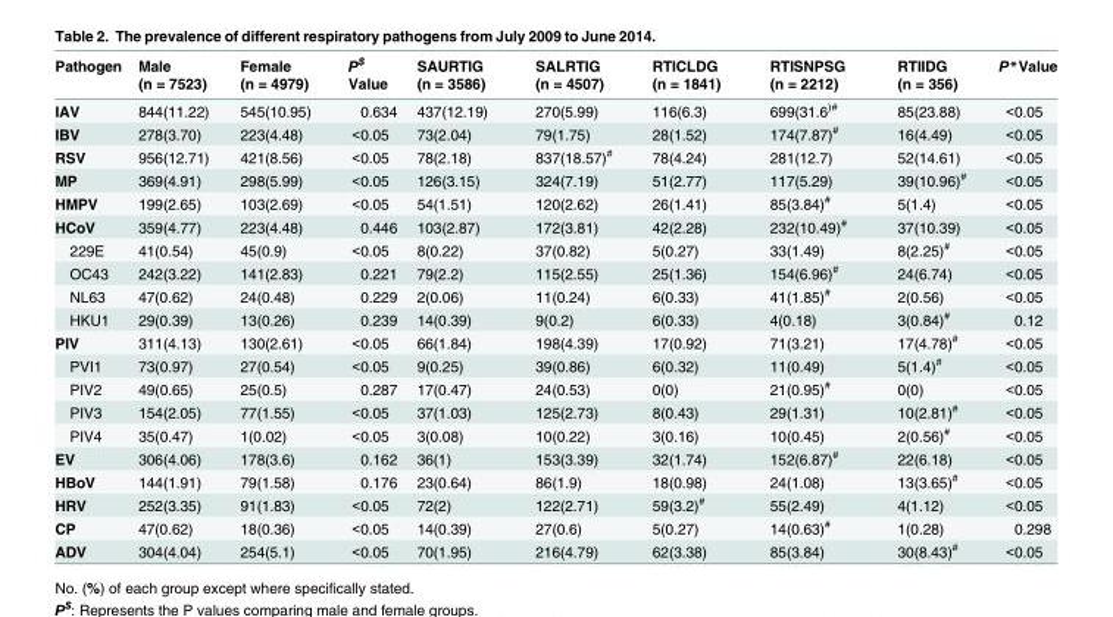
<table><thead><tr><td>Pathogen</td><td>Male (n = 7523)</td><td>Female (n = 4979)</td><td>P<sup>$</sup> Value</td><td>SAURTIG (n = 3586)</td><td>SALRTIG (n = 4507)</td><td>RTICLDG (n = 1841)</td><td>RTISNPSG (n = 2212)</td><td>RTIIDG (n = 356)</td><td>P*Value</td></tr></thead><tbody><tr><td>IAV</td><td>844(11.22)</td><td>545(10.95)</td><td>0.634</td><td>437(12.19)</td><td>270(5.99)</td><td>116(6.3)</td><td>699(31.6<sup>)#</sup></td><td>85(23.88)</td><td>&lt;0.05</td></tr><tr><td>IBV</td><td>278(3.70)</td><td>223(4.48)</td><td>&lt;0.05</td><td>73(2.04)</td><td>79(1.75)</td><td>28(1.52)</td><td>174(7.87)<sup>#</sup></td><td>16(4.49)</td><td>&lt;0.05</td></tr><tr><td>RSV</td><td>956(12.71)</td><td>421(8.56)</td><td>&lt;0.05</td><td>78(2.18)</td><td>837(18.57)<sup>#</sup></td><td>78(4.24)</td><td>281(12.7)</td><td>52(14.61)</td><td>&lt;0.05</td></tr><tr><td>MP</td><td>369(4.91)</td><td>298(5.99)</td><td>&lt;0.05</td><td>126(3.15)</td><td>324(7.19)</td><td>51(2.77)</td><td>117(5.29)</td><td>39(10.96)<sup>#</sup></td><td>&lt;0.05</td></tr><tr><td>HMPV</td><td>199(2.65)</td><td>103(2.69)</td><td>&lt;0.05</td><td>54(1.51)</td><td>120(2.62)</td><td>26(1.41)</td><td>85(3.84)<sup>#</sup></td><td>5(1.4)</td><td>&lt;0.05</td></tr><tr><td>HCoV</td><td>359(4.77)</td><td>223(4.48)</td><td>0.446</td><td>103(2.87)</td><td>172(3.81)</td><td>42(2.28)</td><td>232(10.49)<sup>#</sup></td><td>37(10.39)</td><td>&lt;0.05</td></tr><tr><td>229E</td><td>41(0.54)</td><td>45(0.9)</td><td>&lt;0.05</td><td>8(0.22)</td><td>37(0.82)</td><td>5(0.27)</td><td>33(1.49)</td><td>8(2.25)<sup>#</sup></td><td>&lt;0.05</td></tr><tr><td>OC43</td><td>242(3.22)</td><td>141(2.83)</td><td>0.221</td><td>79(2.2)</td><td>115(2.55)</td><td>25(1.36)</td><td>154(6.96)<sup>#</sup></td><td>24(6.74)</td><td>&lt;0.05</td></tr><tr><td>NL63</td><td>47(0.62)</td><td>24(0.48)</td><td>0.229</td><td>2(0.06)</td><td>11(0.24)</td><td>6(0.33)</td><td>41(1.85)<sup>#</sup></td><td>2(0.56)</td><td>&lt;0.05</td></tr><tr><td>HKU1</td><td>29(0.39)</td><td>13(0.26)</td><td>0.239</td><td>14(0.39)</td><td>9(0.2)</td><td>6(0.33)</td><td>4(0.18)</td><td>3(0.84)<sup>#</sup></td><td>0.12</td></tr><tr><td>PIV</td><td>311(4.13)</td><td>130(2.61)</td><td>&lt;0.05</td><td>66(1.84)</td><td>198(4.39)</td><td>17(0.92)</td><td>71(3.21)</td><td>17(4.78)<sup>#</sup></td><td>&lt;0.05</td></tr><tr><td>PVI1</td><td>73(0.97)</td><td>27(0.54)</td><td>&lt;0.05</td><td>9(0.25)</td><td>39(0.86)</td><td>6(0.32)</td><td>11(0.49)</td><td>5(1.4)<sup>#</sup></td><td>&lt;0.05</td></tr><tr><td>PIV2</td><td>49(0.65)</td><td>25(0.5)</td><td>0.287</td><td>17(0.47)</td><td>24(0.53)</td><td>0(0)</td><td>21(0.95)<sup>#</sup></td><td>0(0)</td><td>&lt;0.05</td></tr><tr><td>PIV3</td><td>154(2.05)</td><td>77(1.55)</td><td>&lt;0.05</td><td>37(1.03)</td><td>125(2.73)</td><td>8(0.43)</td><td>29(1.31)</td><td>10(2.81)<sup>#</sup></td><td>&lt;0.05</td></tr><tr><td>PIV4</td><td>35(0.47)</td><td>1(0.02)</td><td>&lt;0.05</td><td>3(0.08)</td><td>10(0.22)</td><td>3(0.16)</td><td>10(0.45)</td><td>2(0.56)<sup>#</sup></td><td>&lt;0.05</td></tr><tr><td>EV</td><td>306(4.06)</td><td>178(3.6)</td><td>0.162</td><td>36(1)</td><td>153(3.39)</td><td>32(1.74)</td><td>152(6.87)<sup>#</sup></td><td>22(6.18)</td><td>&lt;0.05</td></tr><tr><td>HBoV</td><td>144(1.91)</td><td>79(1.58)</td><td>0.176</td><td>23(0.64)</td><td>86(1.9)</td><td>18(0.98)</td><td>24(1.08)</td><td>13(3.65)<sup>#</sup></td><td>&lt;0.05</td></tr><tr><td>HRV</td><td>252(3.35)</td><td>91(1.83)</td><td>&lt;0.05</td><td>72(2)</td><td>122(2.71)</td><td>59(3.2)<sup>#</sup></td><td>55(2.49)</td><td>4(1.12)</td><td>&lt;0.05</td></tr><tr><td>CP</td><td>47(0.62)</td><td>18(0.36)</td><td>&lt;0.05</td><td>14(0.39)</td><td>27(0.6)</td><td>5(0.27)</td><td>14(0.63)<sup>#</sup></td><td>1(0.28)</td><td>0.298</td></tr><tr><td>ADV</td><td>304(4.04)</td><td>254(5.1)</td><td>&lt;0.05</td><td>70(1.95)</td><td>216(4.79)</td><td>62(3.38)</td><td>85(3.84)</td><td>30(8.43)<sup>#</sup></td><td>&lt;0.05</td></tr></tbody></table>